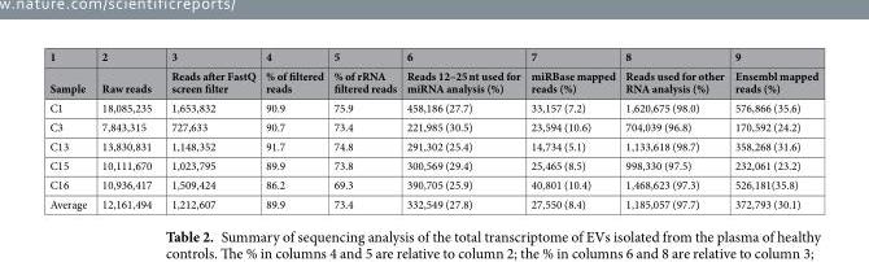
<table><thead><tr><td rowspan="2">1 Sample</td><td rowspan="2">2 Raw reads</td><td rowspan="2">3 Reads after FastQ screen filter</td><td rowspan="2">4 % of filtered reads</td><td rowspan="2">5 % of rRNA filtered reads</td><td rowspan="2">6 Reads 12–25 nt used for miRNA analysis (%)</td><td rowspan="2">7 miRBase mapped reads (%)</td><td rowspan="2">8 Reads used for other RNA analysis (%)</td><td rowspan="2">9 Ensembl mapped reads (%)</td></tr><tr></tr></thead><tbody><tr><td>C1</td><td>18,085,235</td><td>1,653,832</td><td>90.9</td><td>75.9</td><td>458,186 (27.7)</td><td>33,157 (7.2)</td><td>1,620,675 (98.0)</td><td>576,866 (35.6)</td></tr><tr><td>C3</td><td>7,843,315</td><td>727,633</td><td>90.7</td><td>73.4</td><td>221,985 (30.5)</td><td>23,594 (10.6)</td><td>704,039 (96.8)</td><td>170,592 (24.2)</td></tr><tr><td>C13</td><td>13,830,831</td><td>1,148,352</td><td>91.7</td><td>74.8</td><td>291,302 (25.4)</td><td>14,734 (5.1)</td><td>1,133,618 (98.7)</td><td>358,268 (31.6)</td></tr><tr><td>C15</td><td>10,111,670</td><td>1,023,795</td><td>89.9</td><td>73.8</td><td>300,569 (29.4)</td><td>25,465 (8.5)</td><td>998,330 (97.5)</td><td>232,061 (23.2)</td></tr><tr><td>C16</td><td>10,936,417</td><td>1,509,424</td><td>86.2</td><td>69.3</td><td>390,705 (25.9)</td><td>40,801 (10.4)</td><td>1,468,623 (97.3)</td><td>526,181(35.8)</td></tr><tr><td>Average</td><td>12,161,494</td><td>1,212,607</td><td>89.9</td><td>73.4</td><td>332,549 (27.8)</td><td>27,550 (8.4)</td><td>1,185,057 (97.7)</td><td>372,793 (30.1)</td></tr></tbody></table>